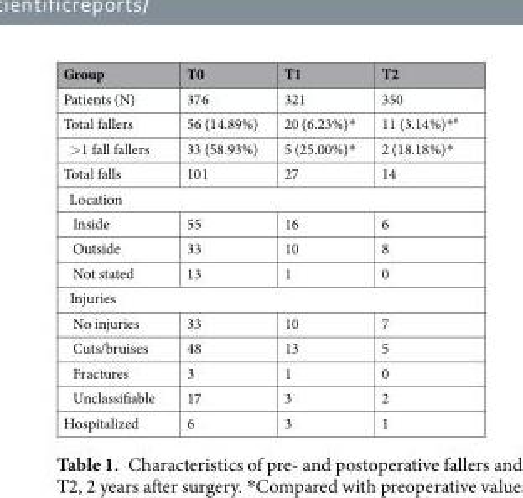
<table><thead><tr><td>Group</td><td>T0</td><td>T1</td><td>T2</td></tr></thead><tbody><tr><td>Patients (N)</td><td>376</td><td>321</td><td>350</td></tr><tr><td>Total fallers</td><td>56 (14.89%)</td><td>20 (6.23%)*</td><td>11 (3.14%)*<sup>#</sup></td></tr><tr><td>&gt;1 fall fallers</td><td>33 (58.93%)</td><td>5 (25.00%)*</td><td>2 (18.18%)*</td></tr><tr><td>Total falls</td><td>101</td><td>27</td><td>14</td></tr><tr><td colspan="4">Location</td></tr><tr><td>Inside</td><td>55</td><td>16</td><td>6</td></tr><tr><td>Outside</td><td>33</td><td>10</td><td>8</td></tr><tr><td>Not stated</td><td>13</td><td>1</td><td>0</td></tr><tr><td colspan="4">Injuries</td></tr><tr><td>No injuries</td><td>33</td><td>10</td><td>7</td></tr><tr><td>Cuts/bruises</td><td>48</td><td>13</td><td>5</td></tr><tr><td>Fractures</td><td>3</td><td>1</td><td>0</td></tr><tr><td>Unclassifiable</td><td>17</td><td>3</td><td>2</td></tr><tr><td>Hospitalized</td><td>6</td><td>3</td><td>1</td></tr></tbody></table>